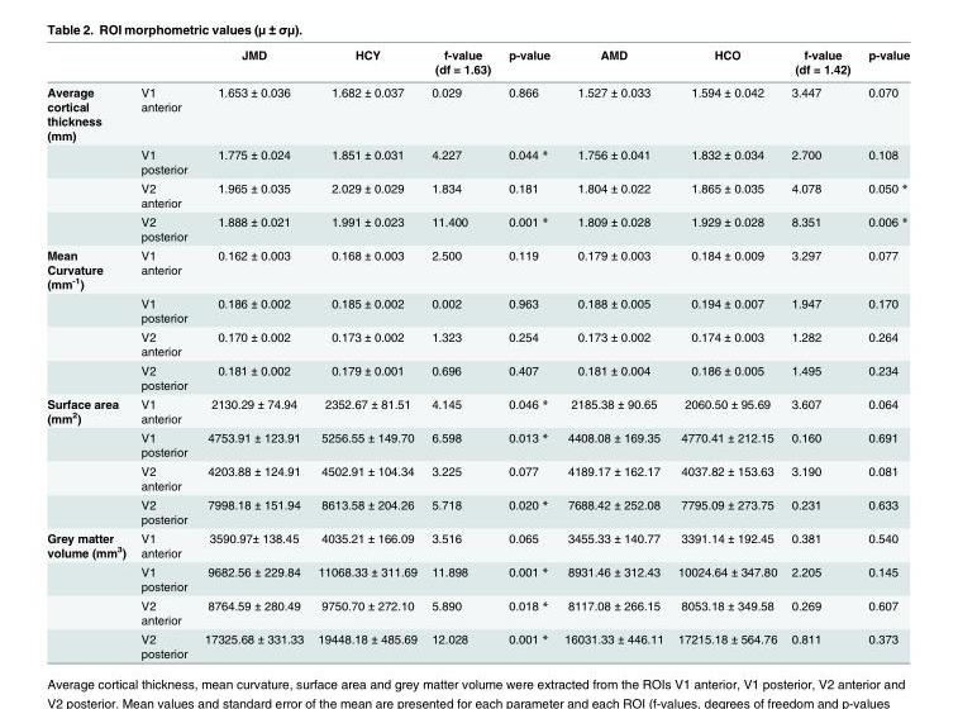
<table><thead><tr><td></td><td></td><td>JMD</td><td>HCY</td><td>f-value (df = 1.63)</td><td>p-value</td><td>AMD</td><td>HCO</td><td>f-value (df = 1.42)</td><td>p-value</td></tr></thead><tbody><tr><td rowspan="4">Average cortical thickness (mm)</td><td>V1 anterior</td><td>1.653 ± 0.036</td><td>1.682 ± 0.037</td><td>0.029</td><td>0.866</td><td>1.527 ± 0.033</td><td>1.594 ± 0.042</td><td>3.447</td><td>0.070</td></tr><tr><td>V1 posterior</td><td>1.775 ± 0.024</td><td>1.851 ± 0.031</td><td>4.227</td><td>0.044 *</td><td>1.756 ± 0.041</td><td>1.832 ± 0.034</td><td>2.700</td><td>0.108</td></tr><tr><td>V2 anterior</td><td>1.965 ± 0.035</td><td>2.029 ± 0.029</td><td>1.834</td><td>0.181</td><td>1.804 ± 0.022</td><td>1.865 ± 0.035</td><td>4.078</td><td>0.050 *</td></tr><tr><td>V2 posterior</td><td>1.888 ± 0.021</td><td>1.991 ± 0.023</td><td>11.400</td><td>0.001 *</td><td>1.809 ± 0.028</td><td>1.929 ± 0.028</td><td>8.351</td><td>0.006 *</td></tr><tr><td rowspan="4">Mean Curvature (mm<sup>-1</sup>)</td><td>V1 anterior</td><td>0.162 ± 0.003</td><td>0.168 ± 0.003</td><td>2.500</td><td>0.119</td><td>0.179 ± 0.003</td><td>0.184 ± 0.009</td><td>3.297</td><td>0.077</td></tr><tr><td>V1 posterior</td><td>0.186 ± 0.002</td><td>0.185 ± 0.002</td><td>0.002</td><td>0.963</td><td>0.188 ± 0.005</td><td>0.194 ± 0.007</td><td>1.947</td><td>0.170</td></tr><tr><td>V2 anterior</td><td>0.170 ± 0.002</td><td>0.173 ± 0.002</td><td>1.323</td><td>0.254</td><td>0.173 ± 0.002</td><td>0.174 ± 0.003</td><td>1.282</td><td>0.264</td></tr><tr><td>V2 posterior</td><td>0.181 ± 0.002</td><td>0.179 ± 0.001</td><td>0.696</td><td>0.407</td><td>0.181 ± 0.004</td><td>0.186 ± 0.005</td><td>1.495</td><td>0.234</td></tr><tr><td rowspan="4">Surface area (mm<sup>2</sup>)</td><td>V1 anterior</td><td>2130.29 ± 74.94</td><td>2352.67 ± 81.51</td><td>4.145</td><td>0.046 *</td><td>2185.38 ± 90.65</td><td>2060.50 ± 95.69</td><td>3.607</td><td>0.064</td></tr><tr><td>V1 posterior</td><td>4753.91 ± 123.91</td><td>5256.55 ± 149.70</td><td>6.598</td><td>0.013 *</td><td>4408.08 ± 169.35</td><td>4770.41 ± 212.15</td><td>0.160</td><td>0.691</td></tr><tr><td>V2 anterior</td><td>4203.88 ± 124.91</td><td>4502.91 ± 104.34</td><td>3.225</td><td>0.077</td><td>4189.17 ± 162.17</td><td>4037.82 ± 153.63</td><td>3.190</td><td>0.081</td></tr><tr><td>V2 posterior</td><td>7998.18 ± 151.94</td><td>8613.58 ± 204.26</td><td>5.718</td><td>0.020 *</td><td>7688.42 ± 252.08</td><td>7795.09 ± 273.75</td><td>0.231</td><td>0.633</td></tr><tr><td rowspan="4">Grey matter volume (mm<sup>3</sup>)</td><td>V1 anterior</td><td>3590.97± 138.45</td><td>4035.21 ± 166.09</td><td>3.516</td><td>0.065</td><td>3455.33 ± 140.77</td><td>3391.14 ± 192.45</td><td>0.381</td><td>0.540</td></tr><tr><td>V1 posterior</td><td>9682.56 ± 229.84</td><td>11068.33 ± 311.69</td><td>11.898</td><td>0.001 *</td><td>8931.46 ± 312.43</td><td>10024.64 ± 347.80</td><td>2.205</td><td>0.145</td></tr><tr><td>V2 anterior</td><td>8764.59 ± 280.49</td><td>9750.70 ± 272.10</td><td>5.890</td><td>0.018 *</td><td>8117.08 ± 266.15</td><td>8053.18 ± 349.58</td><td>0.269</td><td>0.607</td></tr><tr><td>V2 posterior</td><td>17325.68 ± 331.33</td><td>19448.18 ± 485.69</td><td>12.028</td><td>0.001 *</td><td>16031.33 ± 446.11</td><td>17215.18 ± 564.76</td><td>0.811</td><td>0.373</td></tr></tbody></table>